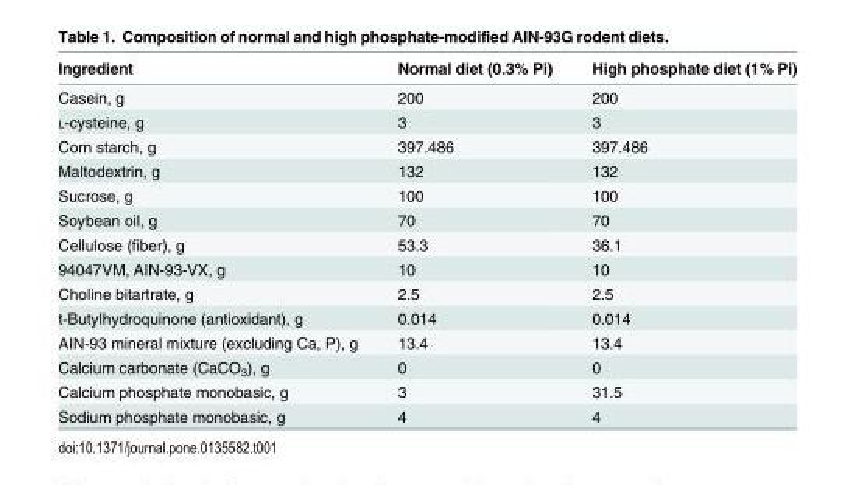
<table><thead><tr><td>Ingredient</td><td>Normal diet (0.3% Pi)</td><td>High phosphate diet (1% Pi)</td></tr></thead><tbody><tr><td>Casein, g</td><td>200</td><td>200</td></tr><tr><td>L-cysteine, g</td><td>3</td><td>3</td></tr><tr><td>Corn starch, g</td><td>397.486</td><td>397.486</td></tr><tr><td>Maltodextrin, g</td><td>132</td><td>132</td></tr><tr><td>Sucrose, g</td><td>100</td><td>100</td></tr><tr><td>Soybean oil, g</td><td>70</td><td>70</td></tr><tr><td>Cellulose (fiber), g</td><td>53.3</td><td>36.1</td></tr><tr><td>94047VM, AIN-93-VX, g</td><td>10</td><td>10</td></tr><tr><td>Choline bitartrate, g</td><td>2.5</td><td>2.5</td></tr><tr><td>t-Butylhydroquinone (antioxidant), g</td><td>0.014</td><td>0.014</td></tr><tr><td>AIN-93 mineral mixture (excluding Ca, P), g</td><td>13.4</td><td>13.4</td></tr><tr><td>Calcium carbonate (CaCO<sub>3</sub>), g</td><td>0</td><td>0</td></tr><tr><td>Calcium phosphate monobasic, g</td><td>3</td><td>31.5</td></tr><tr><td>Sodium phosphate monobasic, g</td><td>4</td><td>4</td></tr></tbody></table>